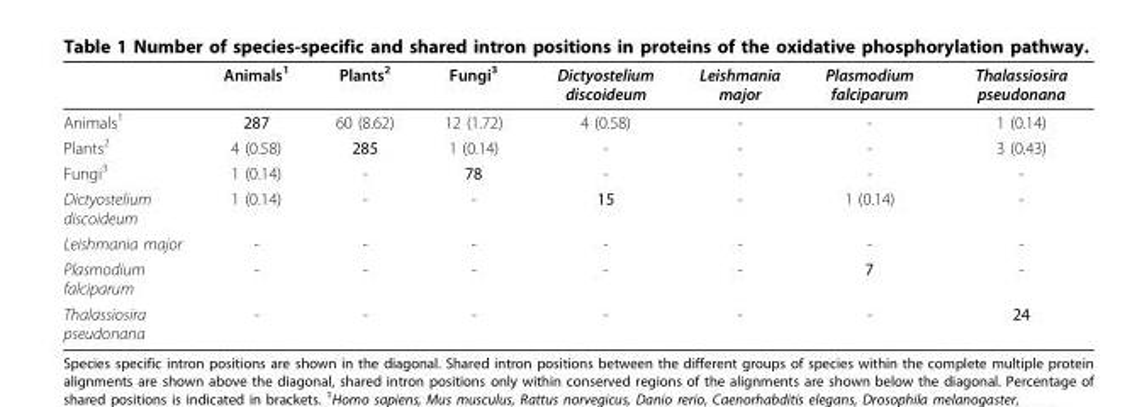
<table><thead><tr><td></td><td>Animals<sup>1</sup></td><td>Plants<sup>2</sup></td><td>Fungi<sup>3</sup></td><td>Dictyostelium discoideum</td><td>Leishmania major</td><td>Plasmodium falciparum</td><td>Thalassiosira pseudonana</td></tr></thead><tbody><tr><td>Animals<sup>1</sup></td><td>287</td><td>60 (8.62)</td><td>12 (1.72)</td><td>4 (0.58)</td><td>-</td><td>-</td><td>1 (0.14)</td></tr><tr><td>Plants<sup>2</sup></td><td>4 (0.58)</td><td>285</td><td>1 (0.14)</td><td>-</td><td>-</td><td>-</td><td>3 (0.43)</td></tr><tr><td>Fungi<sup>3</sup></td><td>1 (0.14)</td><td>-</td><td>78</td><td>-</td><td>-</td><td>-</td><td>-</td></tr><tr><td>Dictyostelium discoideum</td><td>1 (0.14)</td><td>-</td><td>-</td><td>15</td><td>-</td><td>1 (0.14)</td><td>-</td></tr><tr><td>Leishmania major</td><td>-</td><td>-</td><td>-</td><td>-</td><td>-</td><td>-</td><td>-</td></tr><tr><td>Plasmodium falciparum</td><td>-</td><td>-</td><td>-</td><td>-</td><td>-</td><td>7</td><td>-</td></tr><tr><td>Thalassiosira pseudonana</td><td>-</td><td>-</td><td>-</td><td>-</td><td>-</td><td>-</td><td>24</td></tr></tbody></table>